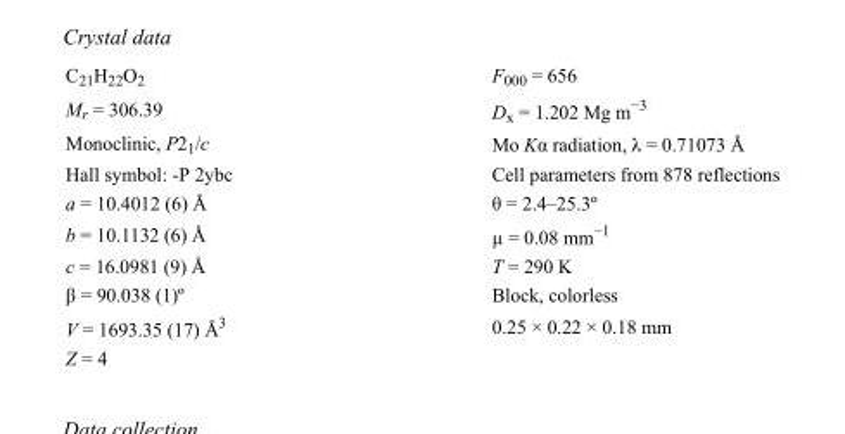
<table><tbody><tr><td>C<sub>21</sub>H<sub>22</sub>O<sub>2</sub></td><td>F000 = 656</td></tr><tr><td>M<sub>r</sub> = 306.39</td><td>D<sub>x</sub> = 1.202 Mg m<sup>−3</sup></td></tr><tr><td>Monoclinic, P2<sub>1</sub>/c</td><td>Mo Kα radiation, λ = 0.71073 Å</td></tr><tr><td>Hall symbol: -P 2ybc</td><td>Cell parameters from 878 reflections</td></tr><tr><td>a = 10.4012 (6) Å</td><td>θ = 2.4–25.3º</td></tr><tr><td>b = 10.1132 (6) Å</td><td>µ = 0.08 mm<sup>−1</sup></td></tr><tr><td>c = 16.0981 (9) Å</td><td>T = 290 K</td></tr><tr><td>β = 90.038 (1)º</td><td>Block, colorless</td></tr><tr><td>V = 1693.35 (17) Å<sup>3</sup></td><td>0.25 × 0.22 × 0.18 mm</td></tr><tr><td>Z = 4</td><td></td></tr></tbody></table>